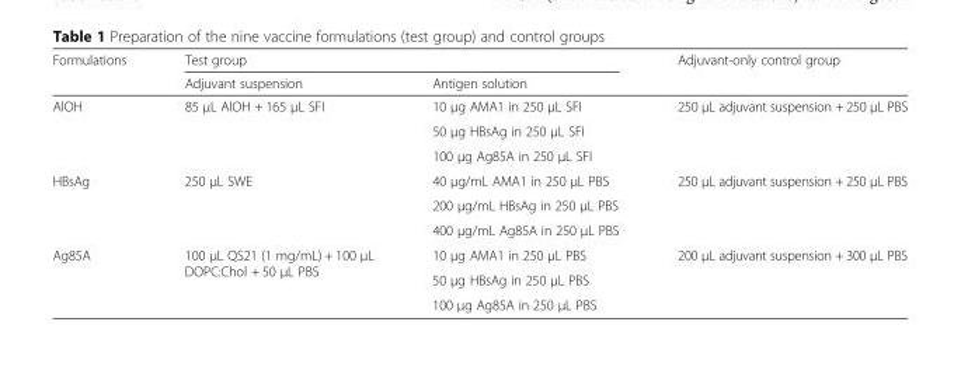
<table><thead><tr><td rowspan="2">Formulations</td><td colspan="2">Test group</td><td rowspan="2">Adjuvant-only control group</td></tr><tr><td>Adjuvant suspension</td><td>Antigen solution</td></tr></thead><tbody><tr><td rowspan="3">AlOH</td><td rowspan="3">85 μL AlOH + 165 μL SFI</td><td>10 μg AMA1 in 250 μL SFI</td><td rowspan="3">250 μL adjuvant suspension + 250 μL PBS</td></tr><tr><td>50 μg HBsAg in 250 μL SFI</td></tr><tr><td>100 μg Ag85A in 250 μL SFI</td></tr><tr><td rowspan="3">HBsAg</td><td rowspan="3">250 μL SWE</td><td>40 μg/mL AMA1 in 250 μL PBS</td><td rowspan="3">250 μL adjuvant suspension + 250 μL PBS</td></tr><tr><td>200 μg/mL HBsAg in 250 μL PBS</td></tr><tr><td>400 μg/mL Ag85A in 250 μL PBS</td></tr><tr><td rowspan="3">Ag85A</td><td rowspan="3">100 μL QS21 (1 mg/mL) + 100 μL DOPC:Chol + 50 μL PBS</td><td>10 μg AMA1 in 250 μL PBS</td><td rowspan="3">200 μL adjuvant suspension + 300 μL PBS</td></tr><tr><td>50 μg HBsAg in 250 μL PBS</td></tr><tr><td>100 μg Ag85A in 250 μL PBS</td></tr></tbody></table>